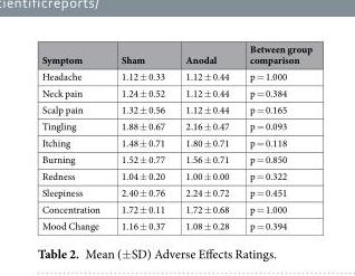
<table><thead><tr><td>Symptom</td><td>Sham</td><td>Anodal</td><td>Between group comparison</td></tr></thead><tbody><tr><td>Headache</td><td>1.12 ± 0.33</td><td>1.12 ± 0.44</td><td>p = 1.000</td></tr><tr><td>Neck pain</td><td>1.24 ± 0.52</td><td>1.12 ± 0.44</td><td>p = 0.384</td></tr><tr><td>Scalp pain</td><td>1.32 ± 0.56</td><td>1.12 ± 0.44</td><td>p = 0.165</td></tr><tr><td>Tingling</td><td>1.88 ± 0.67</td><td>2.16 ± 0.47</td><td>p = 0.093</td></tr><tr><td>Itching</td><td>1.48 ± 0.71</td><td>1.80 ± 0.71</td><td>p = 0.118</td></tr><tr><td>Burning</td><td>1.52 ± 0.77</td><td>1.56 ± 0.71</td><td>p = 0.850</td></tr><tr><td>Redness</td><td>1.04 ± 0.20</td><td>1.00 ± 0.00</td><td>p = 0.322</td></tr><tr><td>Sleepiness</td><td>2.40 ± 0.76</td><td>2.24 ± 0.72</td><td>p = 0.451</td></tr><tr><td>Concentration</td><td>1.72 ± 0.11</td><td>1.72 ± 0.68</td><td>p = 1.000</td></tr><tr><td>Mood Change</td><td>1.16 ± 0.37</td><td>1.08 ± 0.28</td><td>p = 0.394</td></tr></tbody></table>